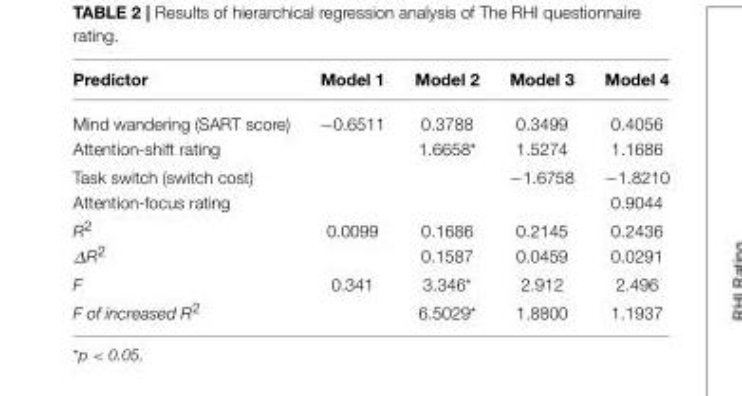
<table><thead><tr><td>Predictor</td><td>Model 1</td><td>Model 2</td><td>Model 3</td><td>Model 4</td></tr></thead><tbody><tr><td>Mind wandering (SART score)</td><td>−0.6511</td><td>0.3788</td><td>0.3499</td><td>0.4056</td></tr><tr><td>Attention-shift rating</td><td></td><td>1.6658*</td><td>1.5274</td><td>1.1686</td></tr><tr><td>Task switch (switch cost)</td><td></td><td></td><td>−1.6758</td><td>−1.8210</td></tr><tr><td>Attention-focus rating</td><td></td><td></td><td></td><td>0.9044</td></tr><tr><td>R<sup>2</sup></td><td>0.0099</td><td>0.1686</td><td>0.2145</td><td>0.2436</td></tr><tr><td>∆R2</td><td></td><td>0.1587</td><td>0.0459</td><td>0.0291</td></tr><tr><td>F</td><td>0.341</td><td>3.346*</td><td>2.912</td><td>2.496</td></tr><tr><td>F of increased R<sup>2</sup></td><td></td><td>6.5029*</td><td>1.8800</td><td>1.1937</td></tr></tbody></table>